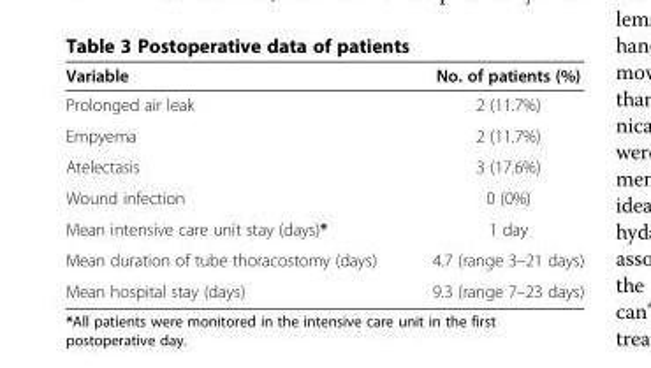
<table><thead><tr><td>Variable</td><td>No. of patients (%)</td></tr></thead><tbody><tr><td>Prolonged air leak</td><td>2 (11.7%)</td></tr><tr><td>Empyema</td><td>2 (11.7%)</td></tr><tr><td>Atelectasis</td><td>3 (17.6%)</td></tr><tr><td>Wound infection</td><td>0 (0%)</td></tr><tr><td>Mean intensive care unit stay (days)*</td><td>1 day</td></tr><tr><td>Mean duration of tube thoracostomy (days)</td><td>4.7 (range 3–21 days)</td></tr><tr><td>Mean hospital stay (days)</td><td>9.3 (range 7–23 days)</td></tr></tbody></table>